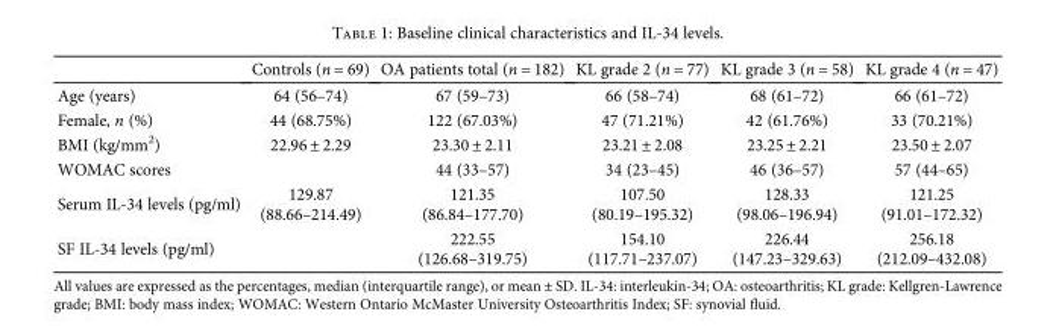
<table><thead><tr><td></td><td>Controls (n = 69)</td><td>OA patients total (n = 182)</td><td>KL grade 2 (n = 77)</td><td>KL grade 3 (n = 58)</td><td>KL grade 4 (n = 47)</td></tr></thead><tbody><tr><td>Age (years)</td><td>64 (56–74)</td><td>67 (59–73)</td><td>66 (58–74)</td><td>68 (61–72)</td><td>66 (61–72)</td></tr><tr><td>Female, n (%)</td><td>44 (68.75%)</td><td>122 (67.03%)</td><td>47 (71.21%)</td><td>42 (61.76%)</td><td>33 (70.21%)</td></tr><tr><td>BMI (kg/mm<sup>2</sup>)</td><td>22.96 ± 2.29</td><td>23.30 ± 2.11</td><td>23.21 ± 2.08</td><td>23.25 ± 2.21</td><td>23.50 ± 2.07</td></tr><tr><td>WOMAC scores</td><td></td><td>44 (33–57)</td><td>34 (23–45)</td><td>46 (36–57)</td><td>57 (44–65)</td></tr><tr><td>Serum IL-34 levels (pg/ml)</td><td>129.87 (88.66–214.49)</td><td>121.35 (86.84–177.70)</td><td>107.50 (80.19–195.32)</td><td>128.33 (98.06–196.94)</td><td>121.25 (91.01–172.32)</td></tr><tr><td>SF IL-34 levels (pg/ml)</td><td></td><td>222.55 (126.68–319.75)</td><td>154.10 (117.71–237.07)</td><td>226.44 (147.23–329.63)</td><td>256.18 (212.09–432.08)</td></tr></tbody></table>